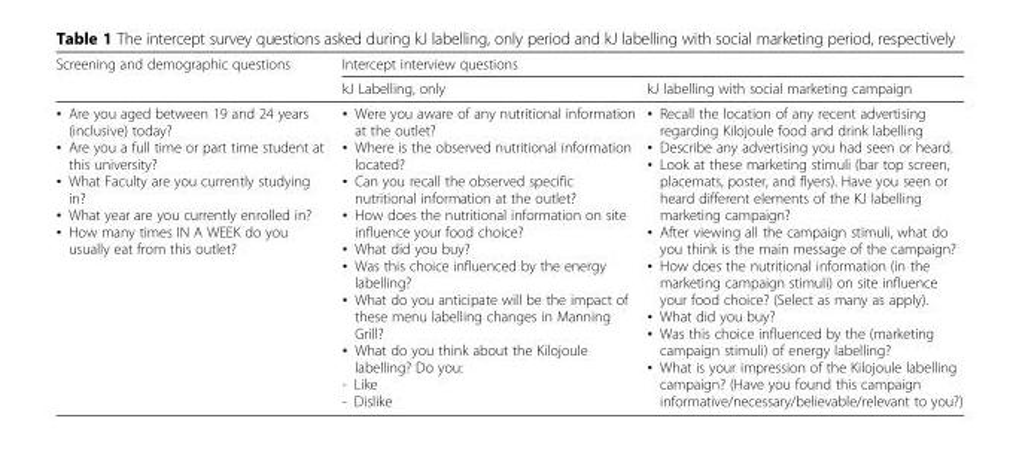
<table><thead><tr><td rowspan="2">Screening and demographic questions</td><td colspan="2">Intercept interview questions</td></tr><tr><td>kJ Labelling, only</td><td>kJ labelling with social marketing campaign</td></tr></thead><tbody><tr><td>• Are you aged between 19 and 24 years (inclusive) today? • Are you a full time or part time student at this university? • What Faculty are you currently studying in? • What year are you currently enrolled in? • How many times IN A WEEK do you usually eat from this outlet?</td><td>• Were you aware of any nutritional information at the outlet? • Where is the observed nutritional information located? • Can you recall the observed specific nutritional information at the outlet? • How does the nutritional information on site influence your food choice? • What did you buy? • Was this choice influenced by the energy labelling? • What do you anticipate will be the impact of these menu labelling changes in Manning Grill? • What do you think about the Kilojoule labelling? Do you: - Like - Dislike</td><td>• Recall the location of any recent advertising regarding Kilojoule food and drink labelling • Describe any advertising you had seen or heard. • Look at these marketing stimuli (bar top screen, placemats, poster, and flyers). Have you seen or heard different elements of the KJ labelling marketing campaign? • After viewing all the campaign stimuli, what do you think is the main message of the campaign? • How does the nutritional information (in the marketing campaign stimuli) on site influence your food choice? (Select as many as apply). • What did you buy? • Was this choice influenced by the (marketing campaign stimuli) of energy labelling? • What is your impression of the Kilojoule labelling campaign? (Have you found this campaign informative/necessary/believable/relevant to you?)</td></tr></tbody></table>